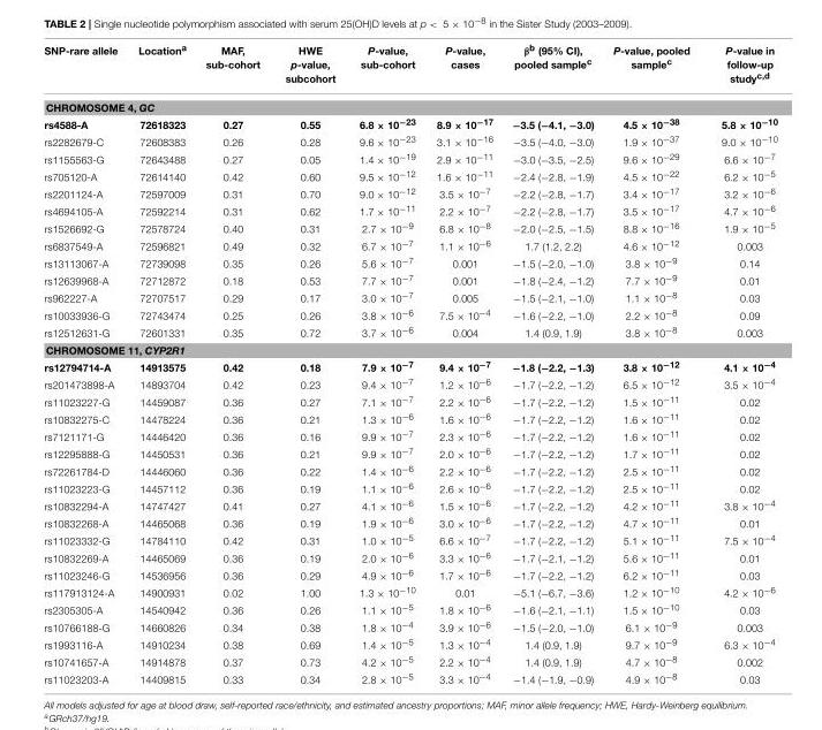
<table><thead><tr><td>SNP-rare allele</td><td>Location<sup>a</sup></td><td>MAF, sub-cohort</td><td>HWE p-value, subcohort</td><td>P-value, sub-cohort</td><td>P-value, cases</td><td>β<sup>b</sup> (95% CI), pooled sample<sup>c</sup></td><td>P-value, pooled sample<sup>c</sup></td><td>P-value in follow-up study<sup>c,d</sup></td></tr></thead><tbody><tr><td colspan="9">CHROMOSOME 4, GC</td></tr><tr><td>rs4588-A</td><td>72618323</td><td>0.27</td><td>0.55</td><td>6.8 × 10<sup>−23</sup></td><td>8.9 × 10<sup>−17</sup></td><td>−3.5 (−4.1, −3.0)</td><td>4.5 × 10<sup>−38</sup></td><td>5.8 × 10<sup>−10</sup></td></tr><tr><td>rs2282679-C</td><td>72608383</td><td>0.26</td><td>0.28</td><td>9.6 × 10<sup>−23</sup></td><td>3.1 × 10<sup>−16</sup></td><td>−3.5 (−4.0, −3.0)</td><td>1.9 × 10<sup>−37</sup></td><td>9.0 × 10<sup>−10</sup></td></tr><tr><td>rs1155563-G</td><td>72643488</td><td>0.27</td><td>0.05</td><td>1.4 × 10<sup>−19</sup></td><td>2.9 × 10<sup>−11</sup></td><td>−3.0 (−3.5, −2.5)</td><td>9.6 × 10<sup>−29</sup></td><td>6.6 × 10<sup>−7</sup></td></tr><tr><td>rs705120-A</td><td>72614140</td><td>0.42</td><td>0.60</td><td>9.5 × 10<sup>−12</sup></td><td>1.6 × 10<sup>−11</sup></td><td>−2.4 (−2.8, −1.9)</td><td>4.5 × 10<sup>−22</sup></td><td>6.2 × 10<sup>−5</sup></td></tr><tr><td>rs2201124-A</td><td>72597009</td><td>0.31</td><td>0.70</td><td>9.0 × 10<sup>−12</sup></td><td>3.5 × 10<sup>−7</sup></td><td>−2.2 (−2.8, −1.7)</td><td>3.4 × 10<sup>−17</sup></td><td>3.2 × 10<sup>−6</sup></td></tr><tr><td>rs4694105-A</td><td>72592214</td><td>0.31</td><td>0.62</td><td>1.7 × 10<sup>−11</sup></td><td>2.2 × 10<sup>−7</sup></td><td>−2.2 (−2.8, −1.7)</td><td>3.5 × 10<sup>−17</sup></td><td>4.7 × 10<sup>−6</sup></td></tr><tr><td>rs1526692-G</td><td>72578724</td><td>0.40</td><td>0.31</td><td>2.7 × 10<sup>−9</sup></td><td>6.8 × 10<sup>−8</sup></td><td>−2.0 (−2.5, −1.5)</td><td>8.8 × 10<sup>−16</sup></td><td>1.9 × 10<sup>−5</sup></td></tr><tr><td>rs6837549-A</td><td>72596821</td><td>0.49</td><td>0.32</td><td>6.7 × 10<sup>−7</sup></td><td>1.1 × 10<sup>−6</sup></td><td>1.7 (1.2, 2.2)</td><td>4.6 × 10<sup>−12</sup></td><td>0.003</td></tr><tr><td>rs13113067-A</td><td>72739098</td><td>0.35</td><td>0.26</td><td>5.6 × 10<sup>−7</sup></td><td>0.001</td><td>−1.5 (−2.0, −1.0)</td><td>3.8 × 10<sup>−9</sup></td><td>0.14</td></tr><tr><td>rs12639968-A</td><td>72712872</td><td>0.18</td><td>0.53</td><td>7.7 × 10<sup>−7</sup></td><td>0.001</td><td>−1.8 (−2.4, −1.2)</td><td>7.7 × 10<sup>−9</sup></td><td>0.01</td></tr><tr><td>rs962227-A</td><td>72707517</td><td>0.29</td><td>0.17</td><td>3.0 × 10<sup>−7</sup></td><td>0.005</td><td>−1.5 (−2.1, −1.0)</td><td>1.1 × 10<sup>−8</sup></td><td>0.03</td></tr><tr><td>rs10033936-G</td><td>72743474</td><td>0.25</td><td>0.26</td><td>3.8 × 10<sup>−6</sup></td><td>7.5 × 10<sup>−4</sup></td><td>−1.6 (−2.2, −1.0)</td><td>2.2 × 10<sup>−8</sup></td><td>0.09</td></tr><tr><td>rs12512631-G</td><td>72601331</td><td>0.35</td><td>0.72</td><td>3.7 × 10<sup>−6</sup></td><td>0.004</td><td>1.4 (0.9, 1.9)</td><td>3.8 × 10<sup>−8</sup></td><td>0.003</td></tr><tr><td colspan="9">CHROMOSOME 11, CYP2R1</td></tr><tr><td>rs12794714-A</td><td>14913575</td><td>0.42</td><td>0.18</td><td>7.9 × 10<sup>−7</sup></td><td>9.4 × 10<sup>−7</sup></td><td>−1.8 (−2.2, −1.3)</td><td>3.8 × 10<sup>−12</sup></td><td>4.1 × 10<sup>−4</sup></td></tr><tr><td>rs201473898-A</td><td>14893704</td><td>0.42</td><td>0.23</td><td>9.4 × 10<sup>−7</sup></td><td>1.2 × 10<sup>−6</sup></td><td>−1.7 (−2.2, −1.2)</td><td>6.5 × 10<sup>−12</sup></td><td>3.5 × 10<sup>−4</sup></td></tr><tr><td>rs11023227-G</td><td>14459087</td><td>0.36</td><td>0.27</td><td>7.1 × 10<sup>−7</sup></td><td>2.2 × 10<sup>−6</sup></td><td>−1.7 (−2.2, −1.2)</td><td>1.5 × 10<sup>−11</sup></td><td>0.02</td></tr><tr><td>rs10832275-C</td><td>14478224</td><td>0.36</td><td>0.21</td><td>1.3 × 10<sup>−6</sup></td><td>1.6 × 10<sup>−6</sup></td><td>−1.7 (−2.2, −1.2)</td><td>1.6 × 10<sup>−11</sup></td><td>0.02</td></tr><tr><td>rs7121171-G</td><td>14446420</td><td>0.36</td><td>0.16</td><td>9.9 × 10<sup>−7</sup></td><td>2.3 × 10<sup>−6</sup></td><td>−1.7 (−2.2, −1.2)</td><td>1.6 × 10<sup>−11</sup></td><td>0.02</td></tr><tr><td>rs12295888-G</td><td>14450531</td><td>0.36</td><td>0.21</td><td>9.9 × 10<sup>−7</sup></td><td>2.0 × 10<sup>−6</sup></td><td>−1.7 (−2.2, −1.2)</td><td>1.7 × 10<sup>−11</sup></td><td>0.02</td></tr><tr><td>rs72261784-D</td><td>14446060</td><td>0.36</td><td>0.22</td><td>1.4 × 10<sup>−6</sup></td><td>2.2 × 10<sup>−6</sup></td><td>−1.7 (−2.2, −1.2)</td><td>2.5 × 10<sup>−11</sup></td><td>0.02</td></tr><tr><td>rs11023223-G</td><td>14457112</td><td>0.36</td><td>0.19</td><td>1.1 × 10<sup>−6</sup></td><td>2.6 × 10<sup>−6</sup></td><td>−1.7 (−2.2, −1.2)</td><td>2.5 × 10<sup>−11</sup></td><td>0.02</td></tr><tr><td>rs10832294-A</td><td>14747427</td><td>0.41</td><td>0.27</td><td>4.1 × 10<sup>−6</sup></td><td>1.5 × 10<sup>−6</sup></td><td>−1.7 (−2.2, −1.2)</td><td>4.2 × 10<sup>−11</sup></td><td>3.8 × 10<sup>−4</sup></td></tr><tr><td>rs10832268-A</td><td>14465068</td><td>0.36</td><td>0.19</td><td>1.9 × 10<sup>−6</sup></td><td>3.0 × 10<sup>−6</sup></td><td>−1.7 (−2.2, −1.2)</td><td>4.7 × 10<sup>−11</sup></td><td>0.01</td></tr><tr><td>rs11023332-G</td><td>14784110</td><td>0.42</td><td>0.31</td><td>1.0 × 10<sup>−5</sup></td><td>6.6 × 10<sup>−7</sup></td><td>−1.7 (−2.2, −1.2)</td><td>5.1 × 10<sup>−11</sup></td><td>7.5 × 10<sup>−4</sup></td></tr><tr><td>rs10832269-A</td><td>14465069</td><td>0.36</td><td>0.19</td><td>2.0 × 10<sup>−6</sup></td><td>3.3 × 10<sup>−6</sup></td><td>−1.7 (−2.1, −1.2)</td><td>5.6 × 10<sup>−11</sup></td><td>0.01</td></tr><tr><td>rs11023246-G</td><td>14536956</td><td>0.36</td><td>0.29</td><td>4.9 × 10<sup>−6</sup></td><td>1.7 × 10<sup>−6</sup></td><td>−1.7 (−2.2, −1.2)</td><td>6.2 × 10<sup>−11</sup></td><td>0.03</td></tr><tr><td>rs117913124-A</td><td>14900931</td><td>0.02</td><td>1.00</td><td>1.3 × 10<sup>−10</sup></td><td>0.01</td><td>−5.1 (−6.7, −3.6)</td><td>1.2 × 10<sup>−10</sup></td><td>4.2 × 10<sup>−6</sup></td></tr><tr><td>rs2305305-A</td><td>14540942</td><td>0.36</td><td>0.26</td><td>1.1 × 10<sup>−5</sup></td><td>1.8 × 10<sup>−6</sup></td><td>−1.6 (−2.1, −1.1)</td><td>1.5 × 10<sup>−10</sup></td><td>0.03</td></tr><tr><td>rs10766188-G</td><td>14660826</td><td>0.34</td><td>0.38</td><td>1.8 × 10<sup>−4</sup></td><td>3.9 × 10<sup>−6</sup></td><td>−1.5 (−2.0, −1.0)</td><td>6.1 × 10<sup>−9</sup></td><td>0.003</td></tr><tr><td>rs1993116-A</td><td>14910234</td><td>0.38</td><td>0.69</td><td>1.4 × 10<sup>−5</sup></td><td>1.3 × 10<sup>−4</sup></td><td>1.4 (0.9, 1.9)</td><td>9.7 × 10<sup>−9</sup></td><td>6.3 × 10<sup>−4</sup></td></tr><tr><td>rs10741657-A</td><td>14914878</td><td>0.37</td><td>0.73</td><td>4.2 × 10<sup>−5</sup></td><td>2.2 × 10<sup>−4</sup></td><td>1.4 (0.9, 1.9)</td><td>4.7 × 10<sup>−8</sup></td><td>0.002</td></tr><tr><td>rs11023203-A</td><td>14409815</td><td>0.33</td><td>0.34</td><td>2.8 × 10<sup>−5</sup></td><td>3.3 × 10<sup>−4</sup></td><td>−1.4 (−1.9, −0.9)</td><td>4.9 × 10<sup>−8</sup></td><td>0.03</td></tr></tbody></table>